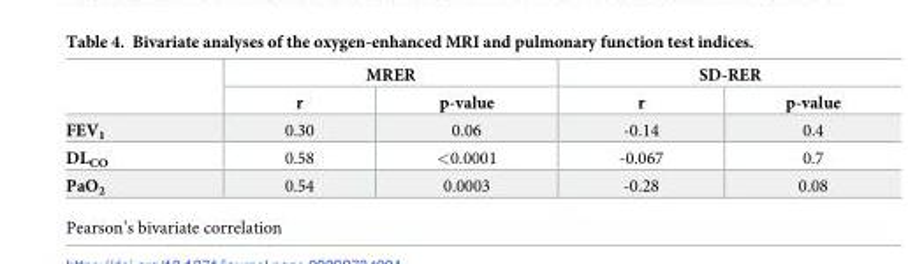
<table><thead><tr><td rowspan="2"></td><td colspan="2">MRER</td><td colspan="2">SD-RER</td></tr><tr><td>r</td><td>p-value</td><td>r</td><td>p-value</td></tr></thead><tbody><tr><td>FEV<sub>1</sub></td><td>0.30</td><td>0.06</td><td>-0.14</td><td>0.4</td></tr><tr><td>DL<sub>CO</sub></td><td>0.58</td><td>&lt;0.0001</td><td>-0.067</td><td>0.7</td></tr><tr><td>PaO<sub>2</sub></td><td>0.54</td><td>0.0003</td><td>-0.28</td><td>0.08</td></tr></tbody></table>